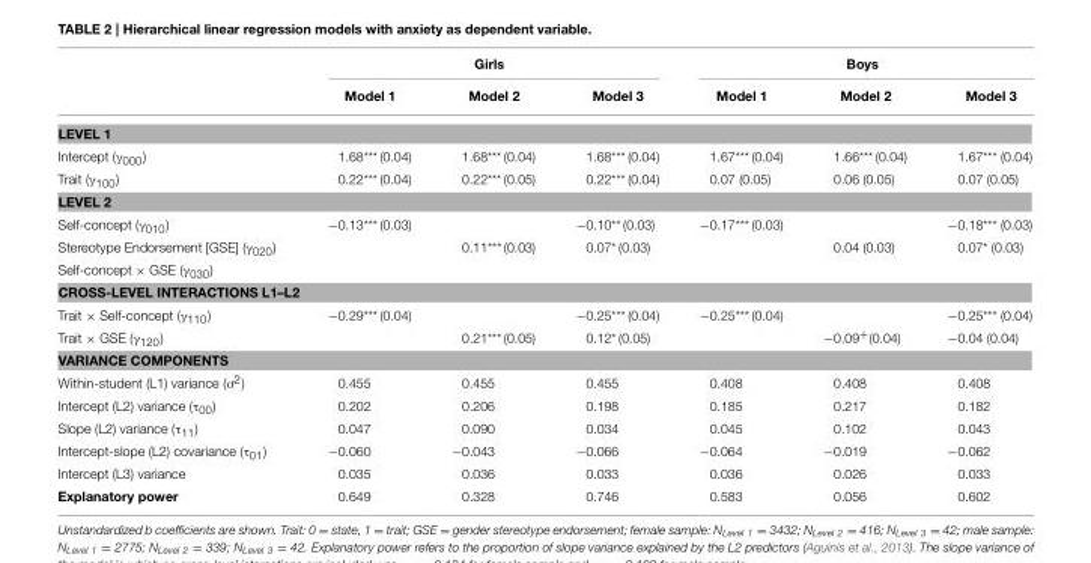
<table><thead><tr><td rowspan="2"></td><td colspan="3">Girls</td><td colspan="3">Boys</td></tr><tr><td>Model 1</td><td>Model 2</td><td>Model 3</td><td>Model 1</td><td>Model 2</td><td>Model 3</td></tr></thead><tbody><tr><td colspan="7">LEVEL 1</td></tr><tr><td>Intercept (γ<sub>000</sub>)</td><td>1.68*** (0.04)</td><td>1.68*** (0.04)</td><td>1.68*** (0.04)</td><td>1.67*** (0.04)</td><td>1.66*** (0.04)</td><td>1.67*** (0.04)</td></tr><tr><td>Trait (γ<sub>100</sub>)</td><td>0.22*** (0.04)</td><td>0.22*** (0.05)</td><td>0.22*** (0.04)</td><td>0.07 (0.05)</td><td>0.06 (0.05)</td><td>0.07 (0.05)</td></tr><tr><td colspan="7">LEVEL 2</td></tr><tr><td>Self-concept (γ<sub>010</sub>)</td><td>−0.13*** (0.03)</td><td></td><td>−0.10** (0.03)</td><td>−0.17*** (0.03)</td><td></td><td>−0.18*** (0.03)</td></tr><tr><td>Stereotype Endorsement [GSE] (γ<sub>020</sub>)</td><td></td><td>0.11*** (0.03)</td><td>0.07* (0.03)</td><td></td><td>0.04 (0.03)</td><td>0.07* (0.03)</td></tr><tr><td colspan="7">Self-concept × GSE (γ<sub>030</sub>)</td></tr><tr><td colspan="7">CROSS-LEVEL INTERACTIONS L1–L2</td></tr><tr><td>Trait × Self-concept (γ<sub>110</sub>)</td><td>−0.29*** (0.04)</td><td></td><td>−0.25*** (0.04)</td><td>−0.25*** (0.04)</td><td></td><td>−0.25*** (0.04)</td></tr><tr><td>Trait × GSE (γ<sub>120</sub>)</td><td></td><td>0.21*** (0.05)</td><td>0.12* (0.05)</td><td></td><td>−0.09<sup>+</sup>(0.04)</td><td>−0.04 (0.04)</td></tr><tr><td colspan="7">VARIANCE COMPONENTS</td></tr><tr><td>Within-student (L1) variance (ơ<sup>2</sup>)</td><td>0.455</td><td>0.455</td><td>0.455</td><td>0.408</td><td>0.408</td><td>0.408</td></tr><tr><td>Intercept (L2) variance (τ<sub>00</sub>)</td><td>0.202</td><td>0.206</td><td>0.198</td><td>0.185</td><td>0.217</td><td>0.182</td></tr><tr><td>Slope (L2) variance (τ<sub>11</sub>)</td><td>0.047</td><td>0.090</td><td>0.034</td><td>0.045</td><td>0.102</td><td>0.043</td></tr><tr><td>Intercept-slope (L2) covariance (τ<sub>01</sub>)</td><td>−0.060</td><td>−0.043</td><td>−0.066</td><td>−0.064</td><td>−0.019</td><td>−0.062</td></tr><tr><td>Intercept (L3) variance</td><td>0.035</td><td>0.036</td><td>0.033</td><td>0.036</td><td>0.026</td><td>0.033</td></tr><tr><td>Explanatory power</td><td>0.649</td><td>0.328</td><td>0.746</td><td>0.583</td><td>0.056</td><td>0.602</td></tr></tbody></table>